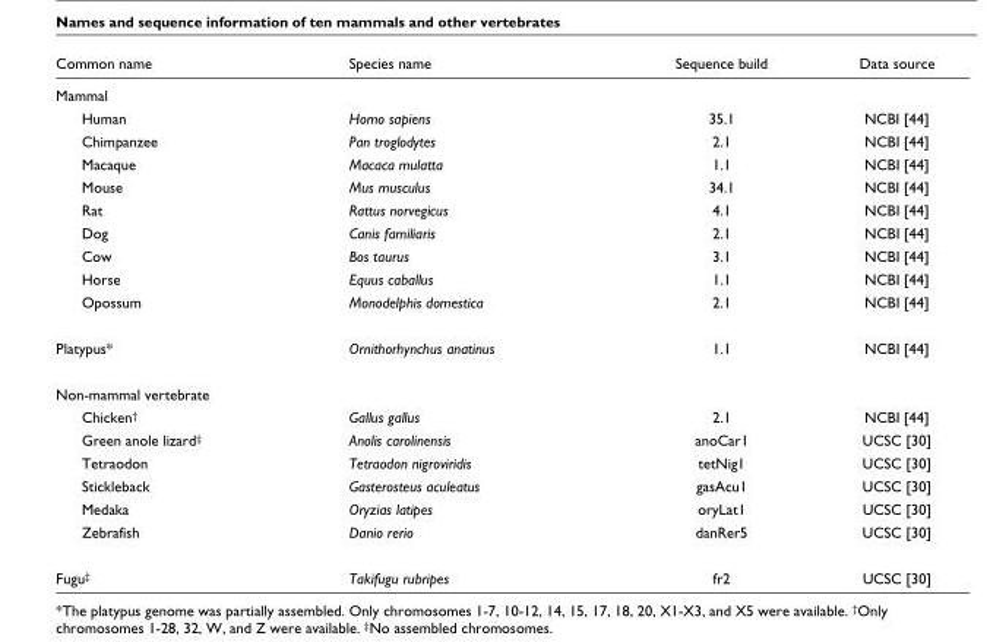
<table><thead><tr><td>Common name</td><td>Species name</td><td>Sequence build</td><td>Data source</td></tr></thead><tbody><tr><td colspan="4">Mammal</td></tr><tr><td>Human</td><td>Homo sapiens</td><td>35.1</td><td>NCBI [44]</td></tr><tr><td>Chimpanzee</td><td>Pan troglodytes</td><td>2.1</td><td>NCBI [44]</td></tr><tr><td>Macaque</td><td>Macaca mulatta</td><td>1.1</td><td>NCBI [44]</td></tr><tr><td>Mouse</td><td>Mus musculus</td><td>34.1</td><td>NCBI [44]</td></tr><tr><td>Rat</td><td>Rattus norvegicus</td><td>4.1</td><td>NCBI [44]</td></tr><tr><td>Dog</td><td>Canis familiaris</td><td>2.1</td><td>NCBI [44]</td></tr><tr><td>Cow</td><td>Bos taurus</td><td>3.1</td><td>NCBI [44]</td></tr><tr><td>Horse</td><td>Equus caballus</td><td>1.1</td><td>NCBI [44]</td></tr><tr><td>Opossum</td><td>Monodelphis domestica</td><td>2.1</td><td>NCBI [44]</td></tr><tr><td>Platypus*</td><td>Ornithorhynchus anatinus</td><td>1.1</td><td>NCBI [44]</td></tr><tr><td colspan="4">Non-mammal vertebrate</td></tr><tr><td>Chicken<sup>†</sup></td><td>Gallus gallus</td><td>2.1</td><td>NCBI [44]</td></tr><tr><td>Green anole lizard<sup>‡</sup></td><td>Anolis carolinensis</td><td>anoCar1</td><td>UCSC [30]</td></tr><tr><td>Tetraodon</td><td>Tetraodon nigroviridis</td><td>tetNig1</td><td>UCSC [30]</td></tr><tr><td>Stickleback</td><td>Gasterosteus aculeatus</td><td>gasAcu1</td><td>UCSC [30]</td></tr><tr><td>Medaka</td><td>Oryzias latipes</td><td>oryLat1</td><td>UCSC [30]</td></tr><tr><td>Zebrafish</td><td>Danio rerio</td><td>danRer5</td><td>UCSC [30]</td></tr><tr><td>Fugu<sup>‡</sup></td><td>Takifugu rubripes</td><td>fr2</td><td>UCSC [30]</td></tr></tbody></table>